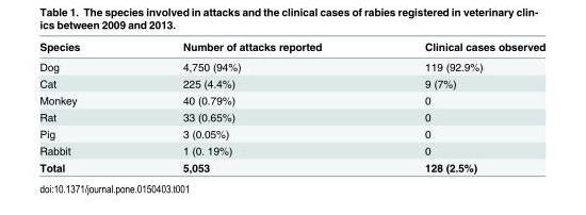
<table><thead><tr><td>Species</td><td>Number of attacks reported</td><td>Clinical cases observed</td></tr></thead><tbody><tr><td>Dog</td><td>4,750 (94%)</td><td>119 (92.9%)</td></tr><tr><td>Cat</td><td>225 (4.4%)</td><td>9 (7%)</td></tr><tr><td>Monkey</td><td>40 (0.79%)</td><td>0</td></tr><tr><td>Rat</td><td>33 (0.65%)</td><td>0</td></tr><tr><td>Pig</td><td>3 (0.05%)</td><td>0</td></tr><tr><td>Rabbit</td><td>1 (0. 19%)</td><td>0</td></tr><tr><td>Total</td><td>5,053</td><td>128 (2.5%)</td></tr></tbody></table>